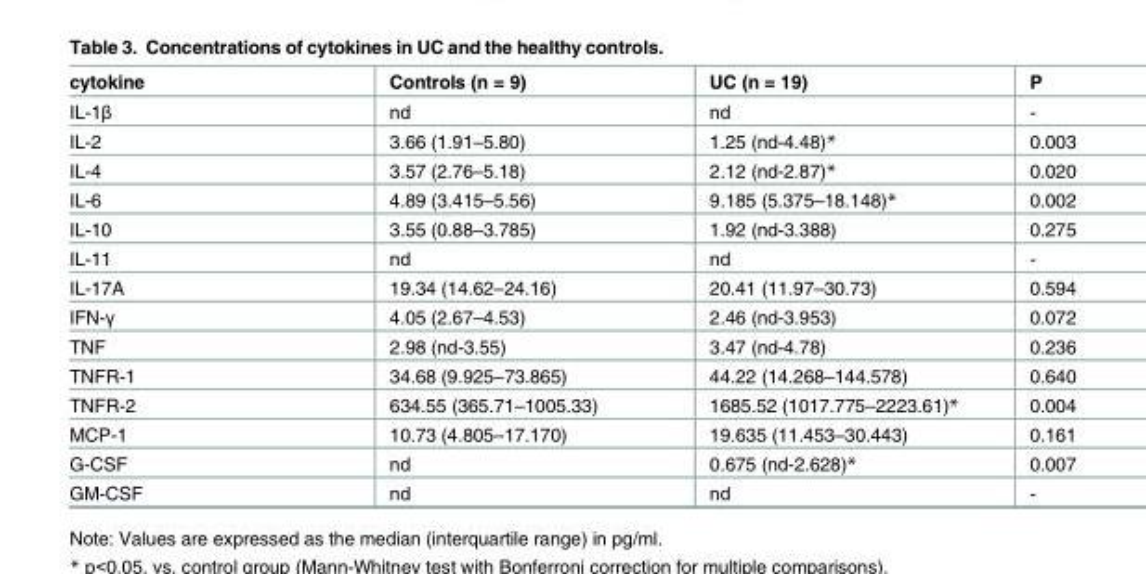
<table><thead><tr><td>cytokine</td><td>Controls (n = 9)</td><td>UC (n = 19)</td><td>P</td></tr></thead><tbody><tr><td>IL-1β</td><td>nd</td><td>nd</td><td>-</td></tr><tr><td>IL-2</td><td>3.66 (1.91–5.80)</td><td>1.25 (nd-4.48)*</td><td>0.003</td></tr><tr><td>IL-4</td><td>3.57 (2.76–5.18)</td><td>2.12 (nd-2.87)*</td><td>0.020</td></tr><tr><td>IL-6</td><td>4.89 (3.415–5.56)</td><td>9.185 (5.375–18.148)*</td><td>0.002</td></tr><tr><td>IL-10</td><td>3.55 (0.88–3.785)</td><td>1.92 (nd-3.388)</td><td>0.275</td></tr><tr><td>IL-11</td><td>nd</td><td>nd</td><td>-</td></tr><tr><td>IL-17A</td><td>19.34 (14.62–24.16)</td><td>20.41 (11.97–30.73)</td><td>0.594</td></tr><tr><td>IFN-γ</td><td>4.05 (2.67–4.53)</td><td>2.46 (nd-3.953)</td><td>0.072</td></tr><tr><td>TNF</td><td>2.98 (nd-3.55)</td><td>3.47 (nd-4.78)</td><td>0.236</td></tr><tr><td>TNFR-1</td><td>34.68 (9.925–73.865)</td><td>44.22 (14.268–144.578)</td><td>0.640</td></tr><tr><td>TNFR-2</td><td>634.55 (365.71–1005.33)</td><td>1685.52 (1017.775–2223.61)*</td><td>0.004</td></tr><tr><td>MCP-1</td><td>10.73 (4.805–17.170)</td><td>19.635 (11.453–30.443)</td><td>0.161</td></tr><tr><td>G-CSF</td><td>nd</td><td>0.675 (nd-2.628)*</td><td>0.007</td></tr><tr><td>GM-CSF</td><td>nd</td><td>nd</td><td>-</td></tr></tbody></table>